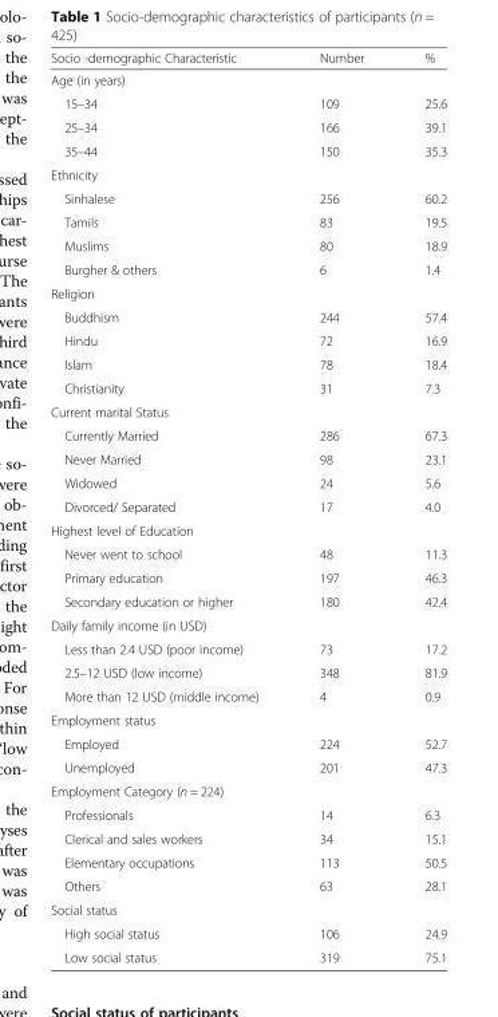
<table><thead><tr><td>Socio -demographic Characteristic</td><td>Number</td><td>%</td></tr></thead><tbody><tr><td colspan="3">Age (in years)</td></tr><tr><td>15–34</td><td>109</td><td>25.6</td></tr><tr><td>25–34</td><td>166</td><td>39.1</td></tr><tr><td>35–44</td><td>150</td><td>35.3</td></tr><tr><td colspan="3">Ethnicity</td></tr><tr><td>Sinhalese</td><td>256</td><td>60.2</td></tr><tr><td>Tamils</td><td>83</td><td>19.5</td></tr><tr><td>Muslims</td><td>80</td><td>18.9</td></tr><tr><td>Burgher &amp; others</td><td>6</td><td>1.4</td></tr><tr><td colspan="3">Religion</td></tr><tr><td>Buddhism</td><td>244</td><td>57.4</td></tr><tr><td>Hindu</td><td>72</td><td>16.9</td></tr><tr><td>Islam</td><td>78</td><td>18.4</td></tr><tr><td>Christianity</td><td>31</td><td>7.3</td></tr><tr><td colspan="3">Current marital Status</td></tr><tr><td>Currently Married</td><td>286</td><td>67.3</td></tr><tr><td>Never Married</td><td>98</td><td>23.1</td></tr><tr><td>Widowed</td><td>24</td><td>5.6</td></tr><tr><td>Divorced/ Separated</td><td>17</td><td>4.0</td></tr><tr><td colspan="3">Highest level of Education</td></tr><tr><td>Never went to school</td><td>48</td><td>11.3</td></tr><tr><td>Primary education</td><td>197</td><td>46.3</td></tr><tr><td>Secondary education or higher</td><td>180</td><td>42.4</td></tr><tr><td colspan="3">Daily family income (in USD)</td></tr><tr><td>Less than 2.4 USD (poor income)</td><td>73</td><td>17.2</td></tr><tr><td>2.5–12 USD (low income)</td><td>348</td><td>81.9</td></tr><tr><td>More than 12 USD (middle income)</td><td>4</td><td>0.9</td></tr><tr><td colspan="3">Employment status</td></tr><tr><td>Employed</td><td>224</td><td>52.7</td></tr><tr><td>Unemployed</td><td>201</td><td>47.3</td></tr><tr><td colspan="3">Employment Category (n = 224)</td></tr><tr><td>Professionals</td><td>14</td><td>6.3</td></tr><tr><td>Clerical and sales workers</td><td>34</td><td>15.1</td></tr><tr><td>Elementary occupations</td><td>113</td><td>50.5</td></tr><tr><td>Others</td><td>63</td><td>28.1</td></tr><tr><td colspan="3">Social status</td></tr><tr><td>High social status</td><td>106</td><td>24.9</td></tr><tr><td>Low social status</td><td>319</td><td>75.1</td></tr></tbody></table>